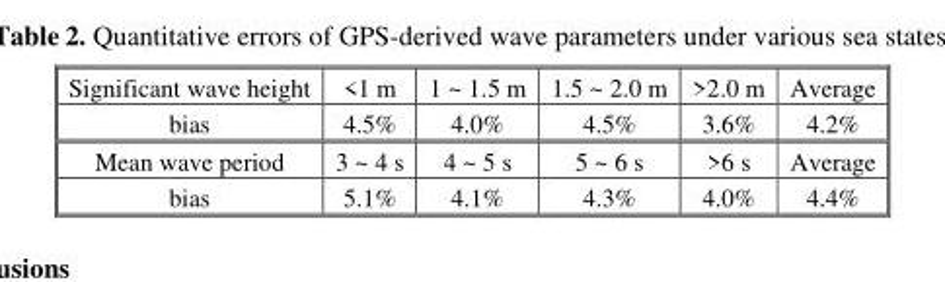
<table><tbody><tr><td>Significant wave height</td><td>&lt;1 m</td><td>1 ~ 1.5 m</td><td>1.5 ~ 2.0 m</td><td>&gt;2.0 m</td><td>Average</td></tr><tr><td>bias</td><td>4.5%</td><td>4.0%</td><td>4.5%</td><td>3.6%</td><td>4.2%</td></tr><tr><td>Mean wave period</td><td>3 ~ 4 s</td><td>4 ~ 5 s</td><td>5 ~ 6 s</td><td>&gt;6 s</td><td>Average</td></tr><tr><td>bias</td><td>5.1%</td><td>4.1%</td><td>4.3%</td><td>4.0%</td><td>4.4%</td></tr></tbody></table>